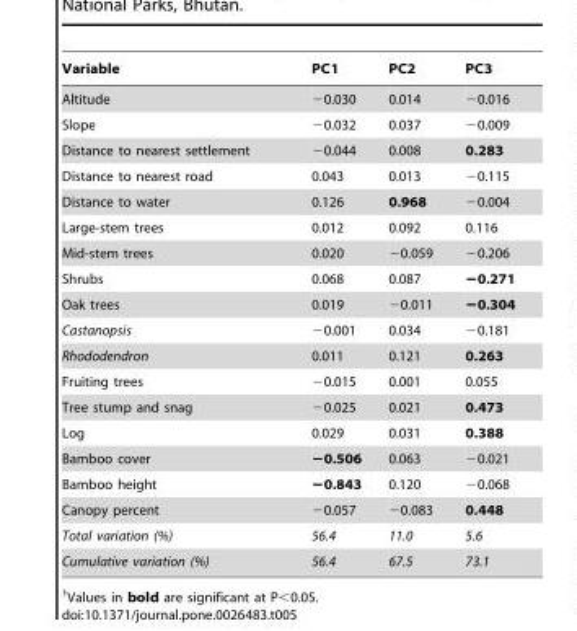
<table><thead><tr><td>Variable</td><td>PC1</td><td>PC2</td><td>PC3</td></tr></thead><tbody><tr><td>Altitude</td><td>−0.030</td><td>0.014</td><td>−0.016</td></tr><tr><td>Slope</td><td>−0.032</td><td>0.037</td><td>−0.009</td></tr><tr><td>Distance to nearest settlement</td><td>−0.044</td><td>0.008</td><td>0.283</td></tr><tr><td>Distance to nearest road</td><td>0.043</td><td>0.013</td><td>−0.115</td></tr><tr><td>Distance to water</td><td>0.126</td><td>0.968</td><td>−0.004</td></tr><tr><td>Large-stem trees</td><td>0.012</td><td>0.092</td><td>0.116</td></tr><tr><td>Mid-stem trees</td><td>0.020</td><td>−0.059</td><td>−0.206</td></tr><tr><td>Shrubs</td><td>0.068</td><td>0.087</td><td>−0.271</td></tr><tr><td>Oak trees</td><td>0.019</td><td>−0.011</td><td>−0.304</td></tr><tr><td>Castanopsis</td><td>−0.001</td><td>0.034</td><td>−0.181</td></tr><tr><td>Rhododendron</td><td>0.011</td><td>0.121</td><td>0.263</td></tr><tr><td>Fruiting trees</td><td>−0.015</td><td>0.001</td><td>0.055</td></tr><tr><td>Tree stump and snag</td><td>−0.025</td><td>0.021</td><td>0.473</td></tr><tr><td>Log</td><td>0.029</td><td>0.031</td><td>0.388</td></tr><tr><td>Bamboo cover</td><td>−0.506</td><td>0.063</td><td>−0.021</td></tr><tr><td>Bamboo height</td><td>−0.843</td><td>0.120</td><td>−0.068</td></tr><tr><td>Canopy percent</td><td>−0.057</td><td>−0.083</td><td>0.448</td></tr><tr><td>Total variation (%)</td><td>56.4</td><td>11.0</td><td>5.6</td></tr><tr><td>Cumulative variation (%)</td><td>56.4</td><td>67.5</td><td>73.1</td></tr></tbody></table>